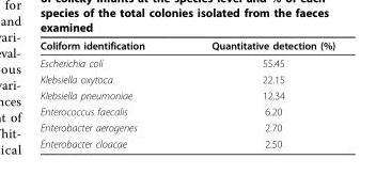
<table><thead><tr><td>Coliform identification</td><td>Quantitative detection (%)</td></tr></thead><tbody><tr><td>Escherichia coli</td><td>55.45</td></tr><tr><td>Klebsiella oxytoca</td><td>22.15</td></tr><tr><td>Klebsiella pneumoniae</td><td>12.34</td></tr><tr><td>Enterococcus faecalis</td><td>6.20</td></tr><tr><td>Enterobacter aerogenes</td><td>2.70</td></tr><tr><td>Enterobacter cloacae</td><td>2.50</td></tr></tbody></table>